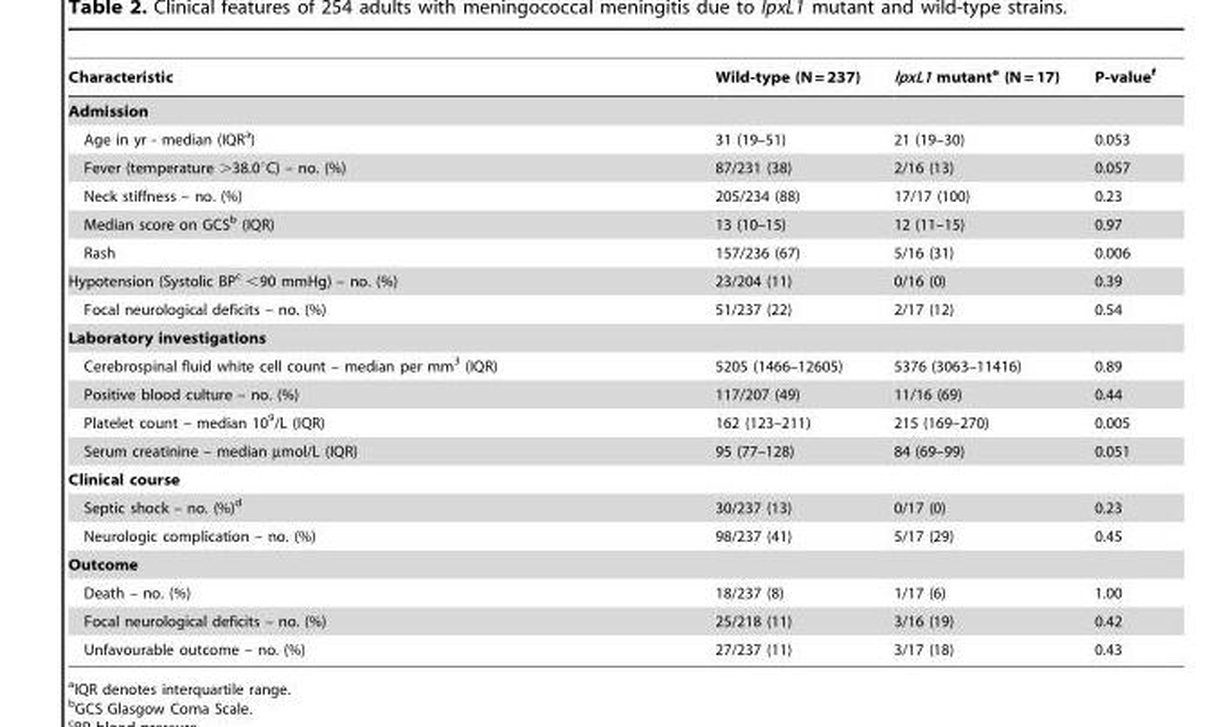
<table><thead><tr><td>Characteristic</td><td>Wild-type (N = 237)</td><td>lpxL1 mutant<sup>e</sup> (N = 17)</td><td>P-value<sup>f</sup></td></tr></thead><tbody><tr><td colspan="4">Admission</td></tr><tr><td>Age in yr - median (IQR<sup>a</sup>)</td><td>31 (19–51)</td><td>21 (19–30)</td><td>0.053</td></tr><tr><td>Fever (temperature &gt;38.0°C) – no. (%)</td><td>87/231 (38)</td><td>2/16 (13)</td><td>0.057</td></tr><tr><td>Neck stiffness – no. (%)</td><td>205/234 (88)</td><td>17/17 (100)</td><td>0.23</td></tr><tr><td>Median score on GCS<sup>b</sup> (IQR)</td><td>13 (10–15)</td><td>12 (11–15)</td><td>0.97</td></tr><tr><td>Rash</td><td>157/236 (67)</td><td>5/16 (31)</td><td>0.006</td></tr><tr><td>Hypotension (Systolic BP<sup>c</sup> &lt;90 mmHg) – no. (%)</td><td>23/204 (11)</td><td>0/16 (0)</td><td>0.39</td></tr><tr><td>Focal neurological deficits – no. (%)</td><td>51/237 (22)</td><td>2/17 (12)</td><td>0.54</td></tr><tr><td colspan="4">Laboratory investigations</td></tr><tr><td>Cerebrospinal fluid white cell count – median per mm<sup>3</sup> (IQR)</td><td>5205 (1466–12605)</td><td>5376 (3063–11416)</td><td>0.89</td></tr><tr><td>Positive blood culture – no. (%)</td><td>117/207 (49)</td><td>11/16 (69)</td><td>0.44</td></tr><tr><td>Platelet count – median 10<sup>9</sup>/L (IQR)</td><td>162 (123–211)</td><td>215 (169–270)</td><td>0.005</td></tr><tr><td>Serum creatinine – median µmol/L (IQR)</td><td>95 (77–128)</td><td>84 (69–99)</td><td>0.051</td></tr><tr><td colspan="4">Clinical course</td></tr><tr><td>Septic shock – no. (%)<sup>d</sup></td><td>30/237 (13)</td><td>0/17 (0)</td><td>0.23</td></tr><tr><td>Neurologic complication – no. (%)</td><td>98/237 (41)</td><td>5/17 (29)</td><td>0.45</td></tr><tr><td colspan="4">Outcome</td></tr><tr><td>Death – no. (%)</td><td>18/237 (8)</td><td>1/17 (6)</td><td>1.00</td></tr><tr><td>Focal neurological deficits – no. (%)</td><td>25/218 (11)</td><td>3/16 (19)</td><td>0.42</td></tr><tr><td>Unfavourable outcome – no. (%)</td><td>27/237 (11)</td><td>3/17 (18)</td><td>0.43</td></tr></tbody></table>